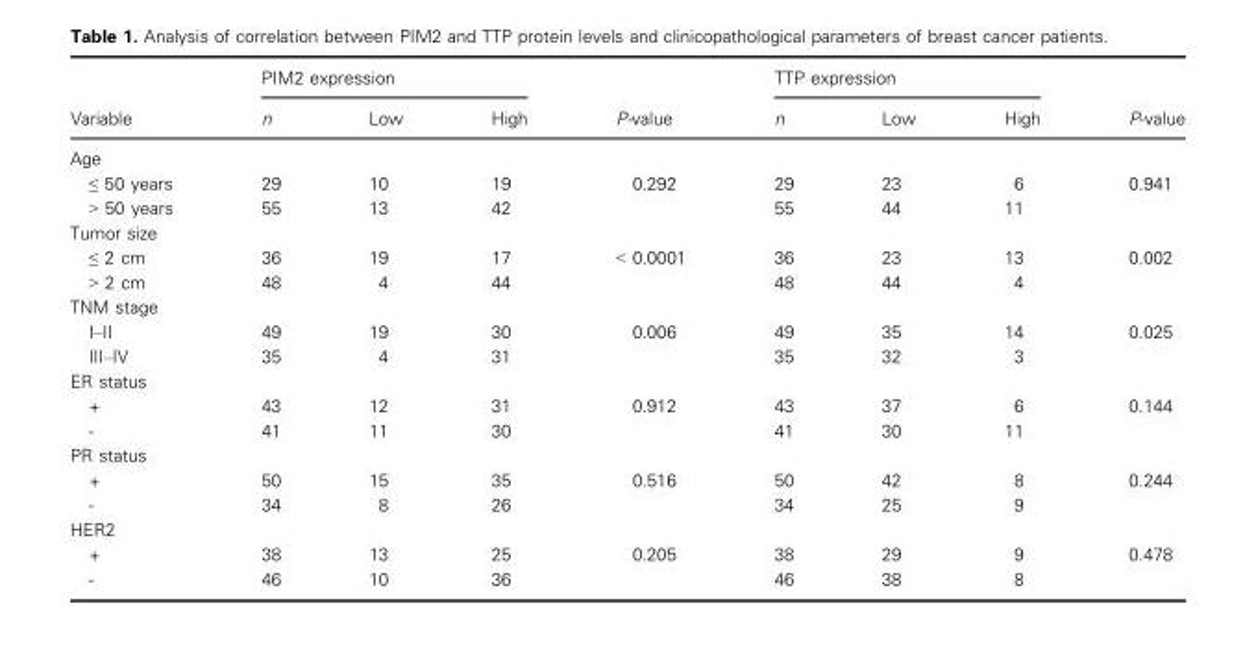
<table><thead><tr><td rowspan="2">Variable</td><td colspan="3">PIM2 expression</td><td rowspan="2">P-value</td><td colspan="3">TTP expression</td><td rowspan="2">P-value</td></tr><tr><td>n</td><td>Low</td><td>High</td><td>n</td><td>Low</td><td>High</td></tr></thead><tbody><tr><td colspan="9">Age</td></tr><tr><td>≤ 50 years</td><td>29</td><td>10</td><td>19</td><td rowspan="2">0.292</td><td>29</td><td>23</td><td>6</td><td rowspan="2">0.941</td></tr><tr><td>&gt; 50 years</td><td>55</td><td>13</td><td>42</td><td>55</td><td>44</td><td>11</td></tr><tr><td colspan="9">Tumor size</td></tr><tr><td>≤ 2 cm</td><td>36</td><td>19</td><td>17</td><td rowspan="2">&lt; 0.0001</td><td>36</td><td>23</td><td>13</td><td rowspan="2">0.002</td></tr><tr><td>&gt; 2 cm</td><td>48</td><td>4</td><td>44</td><td>48</td><td>44</td><td>4</td></tr><tr><td colspan="9">TNM stage</td></tr><tr><td>I–II</td><td>49</td><td>19</td><td>30</td><td rowspan="2">0.006</td><td>49</td><td>35</td><td>14</td><td rowspan="2">0.025</td></tr><tr><td>III–IV</td><td>35</td><td>4</td><td>31</td><td>35</td><td>32</td><td>3</td></tr><tr><td colspan="9">ER status</td></tr><tr><td>+</td><td>43</td><td>12</td><td>31</td><td rowspan="2">0.912</td><td>43</td><td>37</td><td>6</td><td rowspan="2">0.144</td></tr><tr><td>-</td><td>41</td><td>11</td><td>30</td><td>41</td><td>30</td><td>11</td></tr><tr><td colspan="9">PR status</td></tr><tr><td>+</td><td>50</td><td>15</td><td>35</td><td rowspan="2">0.516</td><td>50</td><td>42</td><td>8</td><td rowspan="2">0.244</td></tr><tr><td>-</td><td>34</td><td>8</td><td>26</td><td>34</td><td>25</td><td>9</td></tr><tr><td colspan="9">HER2</td></tr><tr><td>+</td><td>38</td><td>13</td><td>25</td><td rowspan="2">0.205</td><td>38</td><td>29</td><td>9</td><td rowspan="2">0.478</td></tr><tr><td>-</td><td>46</td><td>10</td><td>36</td><td>46</td><td>38</td><td>8</td></tr></tbody></table>